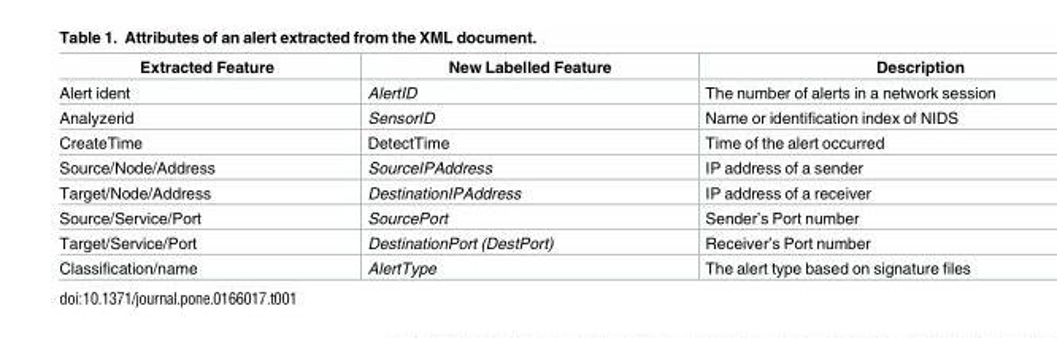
<table><thead><tr><td>Extracted Feature</td><td>New Labelled Feature</td><td>Description</td></tr></thead><tbody><tr><td>Alert ident</td><td>AlertID</td><td>The number of alerts in a network session</td></tr><tr><td>Analyzerid</td><td>SensorID</td><td>Name or identification index of NIDS</td></tr><tr><td>CreateTime</td><td>DetectTime</td><td>Time of the alert occurred</td></tr><tr><td>Source/Node/Address</td><td>SourceIPAddress</td><td>IP address of a sender</td></tr><tr><td>Target/Node/Address</td><td>DestinationIPAddress</td><td>IP address of a receiver</td></tr><tr><td>Source/Service/Port</td><td>SourcePort</td><td>Sender’s Port number</td></tr><tr><td>Target/Service/Port</td><td>DestinationPort (DestPort)</td><td>Receiver’s Port number</td></tr><tr><td>Classification/name</td><td>AlertType</td><td>The alert type based on signature files</td></tr></tbody></table>